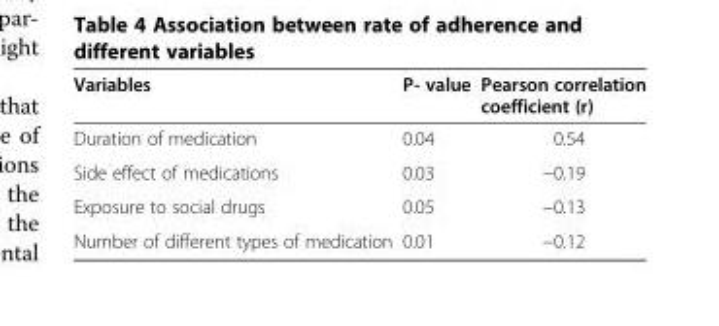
<table><thead><tr><td>Variables</td><td>P- value</td><td>Pearson correlation coefficient (r)</td></tr></thead><tbody><tr><td>Duration of medication</td><td>0.04</td><td>0.54</td></tr><tr><td>Side effect of medications</td><td>0.03</td><td>−0.19</td></tr><tr><td>Exposure to social drugs</td><td>0.05</td><td>−0.13</td></tr><tr><td>Number of different types of medication</td><td>0.01</td><td>−0.12</td></tr></tbody></table>